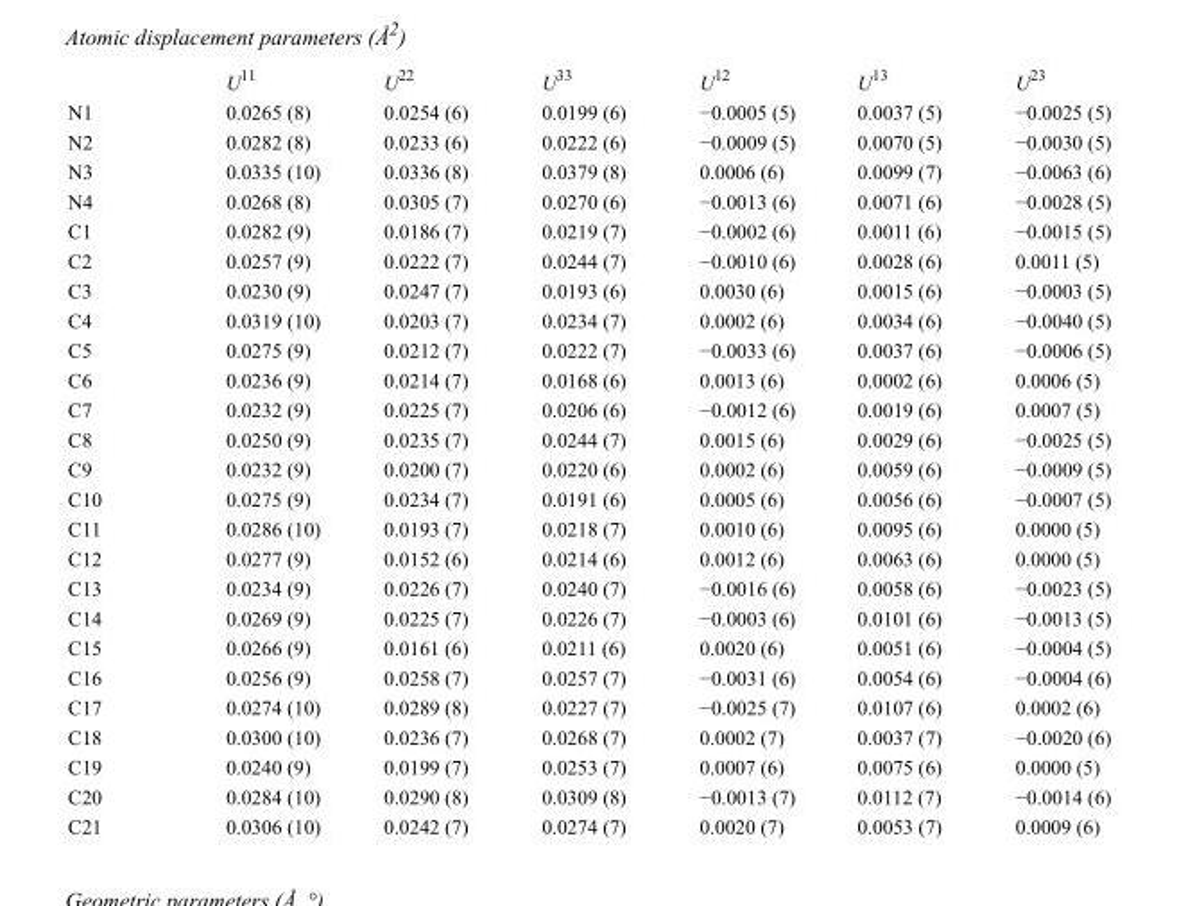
<table><thead><tr><td></td><td>U<sup>11</sup></td><td>U<sup>22</sup></td><td>U<sup>33</sup></td><td>U<sup>12</sup></td><td>U<sup>13</sup></td><td>U<sup>23</sup></td></tr></thead><tbody><tr><td>N1</td><td>0.0265 (8)</td><td>0.0254 (6)</td><td>0.0199 (6)</td><td>−0.0005 (5)</td><td>0.0037 (5)</td><td>−0.0025 (5)</td></tr><tr><td>N2</td><td>0.0282 (8)</td><td>0.0233 (6)</td><td>0.0222 (6)</td><td>−0.0009 (5)</td><td>0.0070 (5)</td><td>−0.0030 (5)</td></tr><tr><td>N3</td><td>0.0335 (10)</td><td>0.0336 (8)</td><td>0.0379 (8)</td><td>0.0006 (6)</td><td>0.0099 (7)</td><td>−0.0063 (6)</td></tr><tr><td>N4</td><td>0.0268 (8)</td><td>0.0305 (7)</td><td>0.0270 (6)</td><td>−0.0013 (6)</td><td>0.0071 (6)</td><td>−0.0028 (5)</td></tr><tr><td>C1</td><td>0.0282 (9)</td><td>0.0186 (7)</td><td>0.0219 (7)</td><td>−0.0002 (6)</td><td>0.0011 (6)</td><td>−0.0015 (5)</td></tr><tr><td>C2</td><td>0.0257 (9)</td><td>0.0222 (7)</td><td>0.0244 (7)</td><td>−0.0010 (6)</td><td>0.0028 (6)</td><td>0.0011 (5)</td></tr><tr><td>C3</td><td>0.0230 (9)</td><td>0.0247 (7)</td><td>0.0193 (6)</td><td>0.0030 (6)</td><td>0.0015 (6)</td><td>−0.0003 (5)</td></tr><tr><td>C4</td><td>0.0319 (10)</td><td>0.0203 (7)</td><td>0.0234 (7)</td><td>0.0002 (6)</td><td>0.0034 (6)</td><td>−0.0040 (5)</td></tr><tr><td>C5</td><td>0.0275 (9)</td><td>0.0212 (7)</td><td>0.0222 (7)</td><td>−0.0033 (6)</td><td>0.0037 (6)</td><td>−0.0006 (5)</td></tr><tr><td>C6</td><td>0.0236 (9)</td><td>0.0214 (7)</td><td>0.0168 (6)</td><td>0.0013 (6)</td><td>0.0002 (6)</td><td>0.0006 (5)</td></tr><tr><td>C7</td><td>0.0232 (9)</td><td>0.0225 (7)</td><td>0.0206 (6)</td><td>−0.0012 (6)</td><td>0.0019 (6)</td><td>0.0007 (5)</td></tr><tr><td>C8</td><td>0.0250 (9)</td><td>0.0235 (7)</td><td>0.0244 (7)</td><td>0.0015 (6)</td><td>0.0029 (6)</td><td>−0.0025 (5)</td></tr><tr><td>C9</td><td>0.0232 (9)</td><td>0.0200 (7)</td><td>0.0220 (6)</td><td>0.0002 (6)</td><td>0.0059 (6)</td><td>−0.0009 (5)</td></tr><tr><td>C10</td><td>0.0275 (9)</td><td>0.0234 (7)</td><td>0.0191 (6)</td><td>0.0005 (6)</td><td>0.0056 (6)</td><td>−0.0007 (5)</td></tr><tr><td>C11</td><td>0.0286 (10)</td><td>0.0193 (7)</td><td>0.0218 (7)</td><td>0.0010 (6)</td><td>0.0095 (6)</td><td>0.0000 (5)</td></tr><tr><td>C12</td><td>0.0277 (9)</td><td>0.0152 (6)</td><td>0.0214 (6)</td><td>0.0012 (6)</td><td>0.0063 (6)</td><td>0.0000 (5)</td></tr><tr><td>C13</td><td>0.0234 (9)</td><td>0.0226 (7)</td><td>0.0240 (7)</td><td>−0.0016 (6)</td><td>0.0058 (6)</td><td>−0.0023 (5)</td></tr><tr><td>C14</td><td>0.0269 (9)</td><td>0.0225 (7)</td><td>0.0226 (7)</td><td>−0.0003 (6)</td><td>0.0101 (6)</td><td>−0.0013 (5)</td></tr><tr><td>C15</td><td>0.0266 (9)</td><td>0.0161 (6)</td><td>0.0211 (6)</td><td>0.0020 (6)</td><td>0.0051 (6)</td><td>−0.0004 (5)</td></tr><tr><td>C16</td><td>0.0256 (9)</td><td>0.0258 (7)</td><td>0.0257 (7)</td><td>−0.0031 (6)</td><td>0.0054 (6)</td><td>−0.0004 (6)</td></tr><tr><td>C17</td><td>0.0274 (10)</td><td>0.0289 (8)</td><td>0.0227 (7)</td><td>−0.0025 (7)</td><td>0.0107 (6)</td><td>0.0002 (6)</td></tr><tr><td>C18</td><td>0.0300 (10)</td><td>0.0236 (7)</td><td>0.0268 (7)</td><td>0.0002 (7)</td><td>0.0037 (7)</td><td>−0.0020 (6)</td></tr><tr><td>C19</td><td>0.0240 (9)</td><td>0.0199 (7)</td><td>0.0253 (7)</td><td>0.0007 (6)</td><td>0.0075 (6)</td><td>0.0000 (5)</td></tr><tr><td>C20</td><td>0.0284 (10)</td><td>0.0290 (8)</td><td>0.0309 (8)</td><td>−0.0013 (7)</td><td>0.0112 (7)</td><td>−0.0014 (6)</td></tr><tr><td>C21</td><td>0.0306 (10)</td><td>0.0242 (7)</td><td>0.0274 (7)</td><td>0.0020 (7)</td><td>0.0053 (7)</td><td>0.0009 (6)</td></tr></tbody></table>